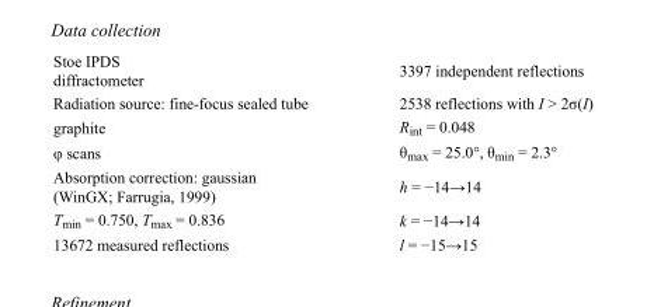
<table><tbody><tr><td>Stoe IPDS diffractometer</td><td>3397 independent reflections</td></tr><tr><td>Radiation source: fine-focus sealed tube</td><td>2538 reflections with I &gt; 2σ(I)</td></tr><tr><td>graphite</td><td>R<sub>int</sub> = 0.048</td></tr><tr><td>φ scans</td><td>θ<sub>max</sub> = 25.0°, θ<sub>min</sub> = 2.3°</td></tr><tr><td>Absorption correction: gaussian (WinGX; Farrugia, 1999)</td><td>h = −14→14</td></tr><tr><td>T<sub>min</sub> = 0.750, T<sub>max</sub> = 0.836</td><td>k = −14→14</td></tr><tr><td>13672 measured reflections</td><td>l = −15→15</td></tr></tbody></table>